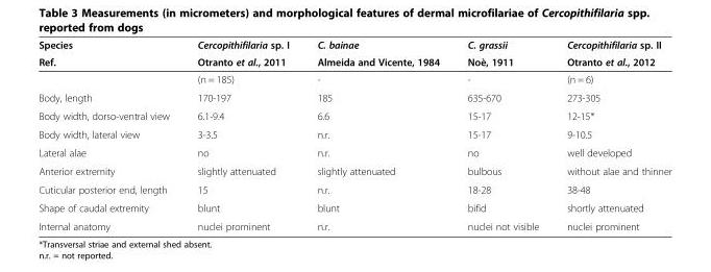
<table><thead><tr><td rowspan="2">Species Ref.</td><td rowspan="2">Cercopithifilaria sp. I Otranto et al., 2011</td><td rowspan="2">C. bainae Almeida and Vicente, 1984</td><td rowspan="2">C. grassii Noè, 1911</td><td rowspan="2">Cercopithifilaria sp. II Otranto et al., 2012</td></tr><tr></tr></thead><tbody><tr><td></td><td>(n = 185)</td><td>-</td><td>-</td><td>(n = 6)</td></tr><tr><td>Body, length</td><td>170-197</td><td>185</td><td>635-670</td><td>273-305</td></tr><tr><td>Body width, dorso-ventral view</td><td>6.1-9.4</td><td>6.6</td><td>15-17</td><td>12-15*</td></tr><tr><td>Body width, lateral view</td><td>3-3.5</td><td>n.r.</td><td>15-17</td><td>9-10.5</td></tr><tr><td>Lateral alae</td><td>no</td><td>n.r.</td><td>no</td><td>well developed</td></tr><tr><td>Anterior extremity</td><td>slightly attenuated</td><td>slightly attenuated</td><td>bulbous</td><td>without alae and thinner</td></tr><tr><td>Cuticular posterior end, length</td><td>15</td><td>n.r.</td><td>18-28</td><td>38-48</td></tr><tr><td>Shape of caudal extremity</td><td>blunt</td><td>blunt</td><td>bifid</td><td>shortly attenuated</td></tr><tr><td>Internal anatomy</td><td>nuclei prominent</td><td>n.r.</td><td>nuclei not visible</td><td>nuclei prominent</td></tr></tbody></table>